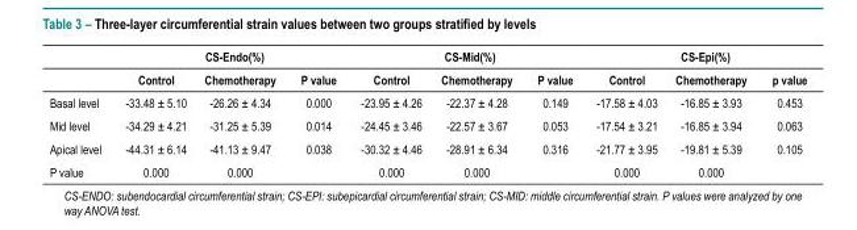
<table><thead><tr><td rowspan="2"></td><td colspan="3">CS-Endo(%)</td><td colspan="3">CS-Mid(%)</td><td colspan="3">CS-Epi(%)</td></tr><tr><td>Control</td><td>Chemotherapy</td><td>P value</td><td>Control</td><td>Chemotherapy</td><td>P value</td><td>Control</td><td>Chemotherapy</td><td>p value</td></tr></thead><tbody><tr><td>Basal level</td><td>-33.48 ± 5.10</td><td>-26.26 ± 4.34</td><td>0.000</td><td>-23.95 ± 4.26</td><td>-22.37 ± 4.28</td><td>0.149</td><td>-17.58 ± 4.03</td><td>-16.85 ± 3.93</td><td>0.453</td></tr><tr><td>Mid level</td><td>-34.29 ± 4.21</td><td>-31.25 ± 5.39</td><td>0.014</td><td>-24.45 ± 3.46</td><td>-22.57 ± 3.67</td><td>0.053</td><td>-17.54 ± 3.21</td><td>-16.85 ± 3.94</td><td>0.063</td></tr><tr><td>Apical level</td><td>-44.31 ± 6.14</td><td>-41.13 ± 9.47</td><td>0.038</td><td>-30.32 ± 4.46</td><td>-28.91 ± 6.34</td><td>0.316</td><td>-21.77 ± 3.95</td><td>-19.81 ± 5.39</td><td>0.105</td></tr><tr><td>P value</td><td>0.000</td><td>0.000</td><td></td><td>0.000</td><td>0.000</td><td></td><td>0.000</td><td>0.000</td><td></td></tr></tbody></table>